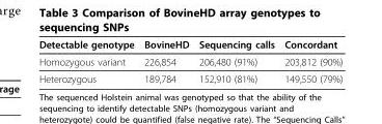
<table><thead><tr><td>Detectable genotype</td><td>BovineHD</td><td>Sequencing calls</td><td>Concordant</td></tr></thead><tbody><tr><td>Homozygous variant</td><td>226,854</td><td>206,480 (91%)</td><td>203,812 (90%)</td></tr><tr><td>Heterozygous</td><td>189,784</td><td>152,910 (81%)</td><td>149,550 (79%)</td></tr></tbody></table>